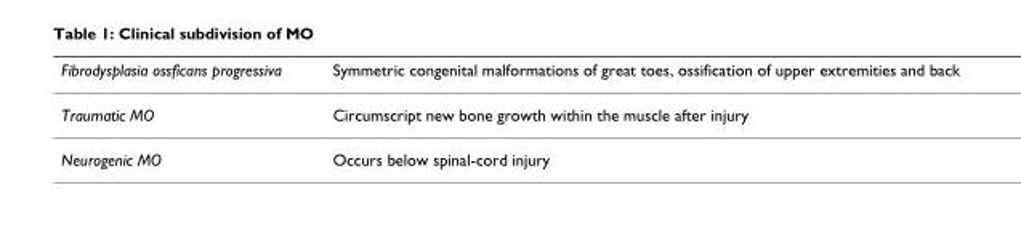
<table><thead><tr><td>Fibrodysplasia ossficans progressiva</td><td>Symmetric congenital malformations of great toes, ossification of upper extremities and back</td></tr></thead><tbody><tr><td>Traumatic MO</td><td>Circumscript new bone growth within the muscle after injury</td></tr><tr><td>Neurogenic MO</td><td>Occurs below spinal-cord injury</td></tr></tbody></table>